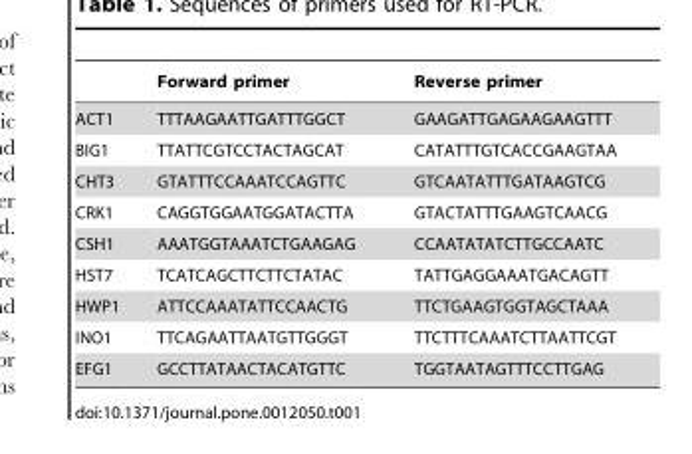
<table><thead><tr><td></td><td>Forward primer</td><td>Reverse primer</td></tr></thead><tbody><tr><td>ACT1</td><td>TTTAAGAATTGATTTGGCT</td><td>GAAGATTGAGAAGAAGTTT</td></tr><tr><td>BIG1</td><td>TTATTCGTCCTACTAGCAT</td><td>CATATTTGTCACCGAAGTAA</td></tr><tr><td>CHT3</td><td>GTATTTCCAAATCCAGTTC</td><td>GTCAATATTTGATAAGTCG</td></tr><tr><td>CRK1</td><td>CAGGTGGAATGGATACTTA</td><td>GTACTATTTGAAGTCAACG</td></tr><tr><td>CSH1</td><td>AAATGGTAAATCTGAAGAG</td><td>CCAATATATCTTGCCAATC</td></tr><tr><td>HST7</td><td>TCATCAGCTTCTTCTATAC</td><td>TATTGAGGAAATGACAGTT</td></tr><tr><td>HWP1</td><td>ATTCCAAATATTCCAACTG</td><td>TTCTGAAGTGGTAGCTAAA</td></tr><tr><td>INO1</td><td>TTCAGAATTAATGTTGGGT</td><td>TTCTTTCAAATCTTAATTCGT</td></tr><tr><td>EFG1</td><td>GCCTTATAACTACATGTTC</td><td>TGGTAATAGTTTCCTTGAG</td></tr></tbody></table>